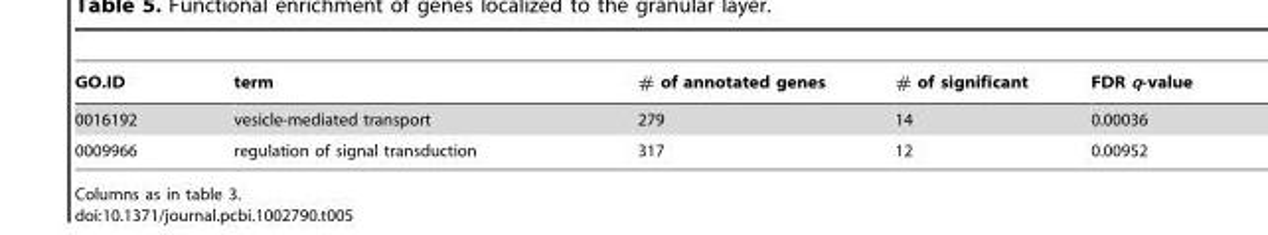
<table><thead><tr><td>GO.ID</td><td>term</td><td># of annotated genes</td><td># of significant</td><td>FDR q-value</td></tr></thead><tbody><tr><td>0016192</td><td>vesicle-mediated transport</td><td>279</td><td>14</td><td>0.00036</td></tr><tr><td>0009966</td><td>regulation of signal transduction</td><td>317</td><td>12</td><td>0.00952</td></tr></tbody></table>